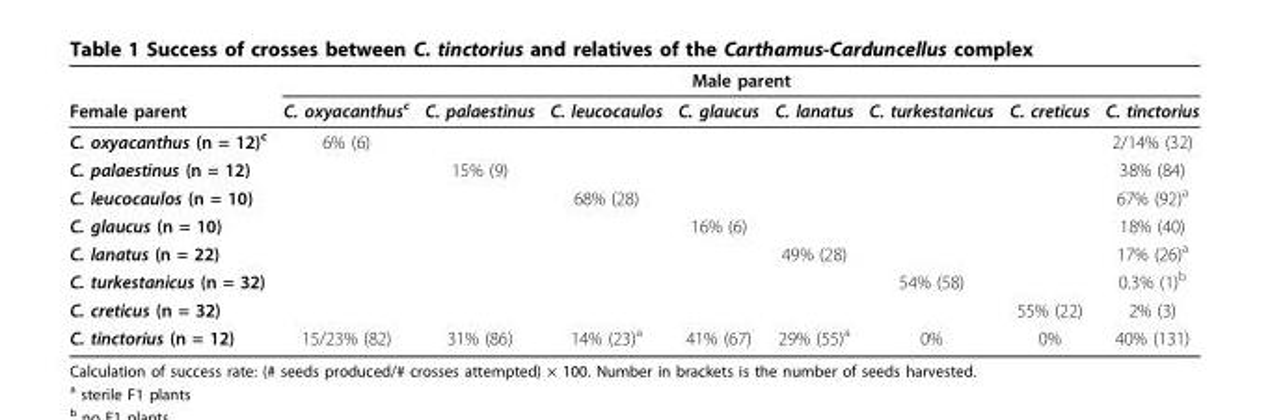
<table><thead><tr><td rowspan="2">Female parent</td><td colspan="8">Male parent</td></tr><tr><td>C. oxyacanthus<sup>c</sup></td><td>C. palaestinus</td><td>C. leucocaulos</td><td>C. glaucus</td><td>C. lanatus</td><td>C. turkestanicus</td><td>C. creticus</td><td>C. tinctorius</td></tr></thead><tbody><tr><td>C. oxyacanthus (n = 12)<sup>c</sup></td><td>6% (6)</td><td></td><td></td><td></td><td></td><td></td><td></td><td>2/14% (32)</td></tr><tr><td>C. palaestinus (n = 12)</td><td></td><td>15% (9)</td><td></td><td></td><td></td><td></td><td></td><td>38% (84)</td></tr><tr><td>C. leucocaulos (n = 10)</td><td></td><td></td><td>68% (28)</td><td></td><td></td><td></td><td></td><td>67% (92)<sup>a</sup></td></tr><tr><td>C. glaucus (n = 10)</td><td></td><td></td><td></td><td>16% (6)</td><td></td><td></td><td></td><td>18% (40)</td></tr><tr><td>C. lanatus (n = 22)</td><td></td><td></td><td></td><td></td><td>49% (28)</td><td></td><td></td><td>17% (26)<sup>a</sup></td></tr><tr><td>C. turkestanicus (n = 32)</td><td></td><td></td><td></td><td></td><td></td><td>54% (58)</td><td></td><td>0.3% (1)<sup>b</sup></td></tr><tr><td>C. creticus (n = 32)</td><td></td><td></td><td></td><td></td><td></td><td></td><td>55% (22)</td><td>2% (3)</td></tr><tr><td>C. tinctorius (n = 12)</td><td>15/23% (82)</td><td>31% (86)</td><td>14% (23)<sup>a</sup></td><td>41% (67)</td><td>29% (55)<sup>a</sup></td><td>0%</td><td>0%</td><td>40% (131)</td></tr></tbody></table>